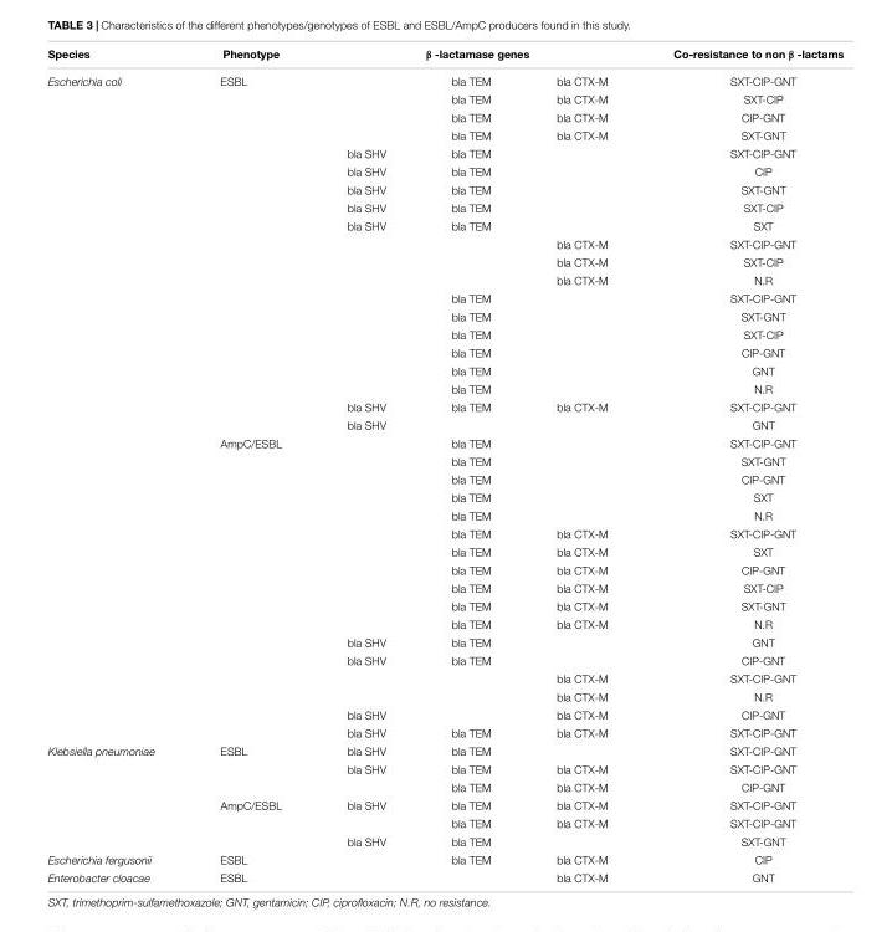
<table><thead><tr><td rowspan="2">Species Escherichia coli</td><td rowspan="2">Phenotype ESBL</td><td colspan="3">β -lactamase genes</td><td rowspan="2">Co-resistance to non β -lactams SXT-CIP-GNT</td></tr><tr><td></td><td>bla TEM</td><td>bla CTX-M</td></tr></thead><tbody><tr><td></td><td></td><td></td><td>bla TEM</td><td>bla CTX-M</td><td>SXT-CIP</td></tr><tr><td></td><td></td><td></td><td>bla TEM</td><td>bla CTX-M</td><td>CIP-GNT</td></tr><tr><td></td><td></td><td></td><td>bla TEM</td><td>bla CTX-M</td><td>SXT-GNT</td></tr><tr><td></td><td></td><td>bla SHV</td><td>bla TEM</td><td></td><td>SXT-CIP-GNT</td></tr><tr><td></td><td></td><td>bla SHV</td><td>bla TEM</td><td></td><td>CIP</td></tr><tr><td></td><td></td><td>bla SHV</td><td>bla TEM</td><td></td><td>SXT-GNT</td></tr><tr><td></td><td></td><td>bla SHV</td><td>bla TEM</td><td></td><td>SXT-CIP</td></tr><tr><td></td><td></td><td>bla SHV</td><td>bla TEM</td><td></td><td>SXT</td></tr><tr><td></td><td></td><td></td><td></td><td>bla CTX-M</td><td>SXT-CIP-GNT</td></tr><tr><td></td><td></td><td></td><td></td><td>bla CTX-M</td><td>SXT-CIP</td></tr><tr><td></td><td></td><td></td><td></td><td>bla CTX-M</td><td>N.R</td></tr><tr><td></td><td></td><td></td><td>bla TEM</td><td></td><td>SXT-CIP-GNT</td></tr><tr><td></td><td></td><td></td><td>bla TEM</td><td></td><td>SXT-GNT</td></tr><tr><td></td><td></td><td></td><td>bla TEM</td><td></td><td>SXT-CIP</td></tr><tr><td></td><td></td><td></td><td>bla TEM</td><td></td><td>CIP-GNT</td></tr><tr><td></td><td></td><td></td><td>bla TEM</td><td></td><td>GNT</td></tr><tr><td></td><td></td><td></td><td>bla TEM</td><td></td><td>N.R</td></tr><tr><td></td><td></td><td>bla SHV</td><td>bla TEM</td><td>bla CTX-M</td><td>SXT-CIP-GNT</td></tr><tr><td></td><td></td><td>bla SHV</td><td></td><td></td><td>GNT</td></tr><tr><td></td><td>AmpC/ESBL</td><td></td><td>bla TEM</td><td></td><td>SXT-CIP-GNT</td></tr><tr><td></td><td></td><td></td><td>bla TEM</td><td></td><td>SXT-GNT</td></tr><tr><td></td><td></td><td></td><td>bla TEM</td><td></td><td>CIP-GNT</td></tr><tr><td></td><td></td><td></td><td>bla TEM</td><td></td><td>SXT</td></tr><tr><td></td><td></td><td></td><td>bla TEM</td><td></td><td>N.R</td></tr><tr><td></td><td></td><td></td><td>bla TEM</td><td>bla CTX-M</td><td>SXT-CIP-GNT</td></tr><tr><td></td><td></td><td></td><td>bla TEM</td><td>bla CTX-M</td><td>SXT</td></tr><tr><td></td><td></td><td></td><td>bla TEM</td><td>bla CTX-M</td><td>CIP-GNT</td></tr><tr><td></td><td></td><td></td><td>bla TEM</td><td>bla CTX-M</td><td>SXT-CIP</td></tr><tr><td></td><td></td><td></td><td>bla TEM</td><td>bla CTX-M</td><td>SXT-GNT</td></tr><tr><td></td><td></td><td></td><td>bla TEM</td><td>bla CTX-M</td><td>N.R</td></tr><tr><td></td><td></td><td>bla SHV</td><td>bla TEM</td><td></td><td>GNT</td></tr><tr><td></td><td></td><td>bla SHV</td><td>bla TEM</td><td></td><td>CIP-GNT</td></tr><tr><td></td><td></td><td></td><td></td><td>bla CTX-M</td><td>SXT-CIP-GNT</td></tr><tr><td></td><td></td><td></td><td></td><td>bla CTX-M</td><td>N.R</td></tr><tr><td></td><td></td><td>bla SHV</td><td></td><td>bla CTX-M</td><td>CIP-GNT</td></tr><tr><td></td><td></td><td>bla SHV</td><td>bla TEM</td><td>bla CTX-M</td><td>SXT-CIP-GNT</td></tr><tr><td rowspan="6">Klebsiella pneumoniae</td><td>ESBL</td><td>bla SHV</td><td>bla TEM</td><td></td><td>SXT-CIP-GNT</td></tr><tr><td></td><td>bla SHV</td><td>bla TEM</td><td>bla CTX-M</td><td>SXT-CIP-GNT</td></tr><tr><td></td><td></td><td>bla TEM</td><td>bla CTX-M</td><td>CIP-GNT</td></tr><tr><td>AmpC/ESBL</td><td>bla SHV</td><td>bla TEM</td><td>bla CTX-M</td><td>SXT-CIP-GNT</td></tr><tr><td></td><td></td><td>bla TEM</td><td>bla CTX-M</td><td>SXT-CIP-GNT</td></tr><tr><td></td><td>bla SHV</td><td>bla TEM</td><td></td><td>SXT-GNT</td></tr><tr><td>Escherichia fergusonii</td><td>ESBL</td><td></td><td>bla TEM</td><td>bla CTX-M</td><td>CIP</td></tr><tr><td>Enterobacter cloacae</td><td>ESBL</td><td></td><td></td><td>bla CTX-M</td><td>GNT</td></tr></tbody></table>